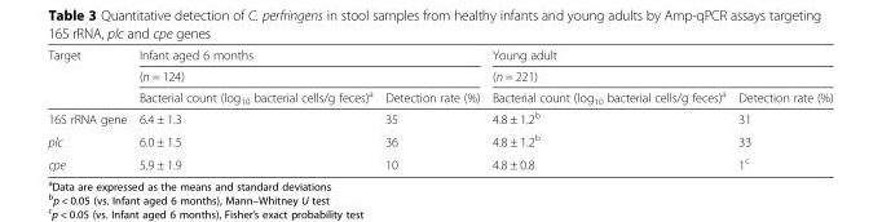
<table><thead><tr><td rowspan="3">Target</td><td rowspan="2" colspan="2">Infant aged 6 months (n = 124)</td><td rowspan="2" colspan="2">Young adult (n = 221)</td></tr><tr></tr><tr><td>Bacterial count (log<sub>10</sub> bacterial cells/g feces)<sup>a</sup></td><td>Detection rate (%)</td><td>Bacterial count (log<sub>10</sub> bacterial cells/g feces)<sup>a</sup></td><td>Detection rate (%)</td></tr></thead><tbody><tr><td>16S rRNA gene</td><td>6.4 ± 1.3</td><td>35</td><td>4.8 ± 1.2<sup>b</sup></td><td>31</td></tr><tr><td>plc</td><td>6.0 ± 1.5</td><td>36</td><td>4.8 ± 1.2<sup>b</sup></td><td>33</td></tr><tr><td>cpe</td><td>5.9 ± 1.9</td><td>10</td><td>4.8 ± 0.8</td><td>1<sup>c</sup></td></tr></tbody></table>